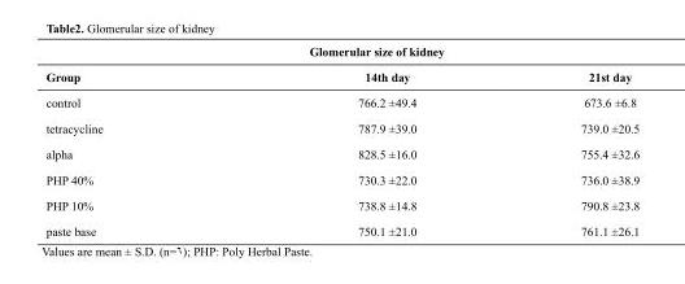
<table><thead><tr><td colspan="3">Glomerular size of kidney</td></tr><tr><td>Group</td><td>14<sup>th</sup> day</td><td>21<sup>st</sup> day</td></tr></thead><tbody><tr><td>control</td><td>766.2 ±49.4</td><td>673.6 ±6.8</td></tr><tr><td>tetracycline</td><td>787.9 ±39.0</td><td>739.0 ±20.5</td></tr><tr><td>alpha</td><td>828.5 ±16.0</td><td>755.4 ±32.6</td></tr><tr><td>PHP 40%</td><td>730.3 ±22.0</td><td>736.0 ±38.9</td></tr><tr><td>PHP 10%</td><td>738.8 ±14.8</td><td>790.8 ±23.8</td></tr><tr><td>paste base</td><td>750.1 ±21.0</td><td>761.1 ±26.1</td></tr></tbody></table>